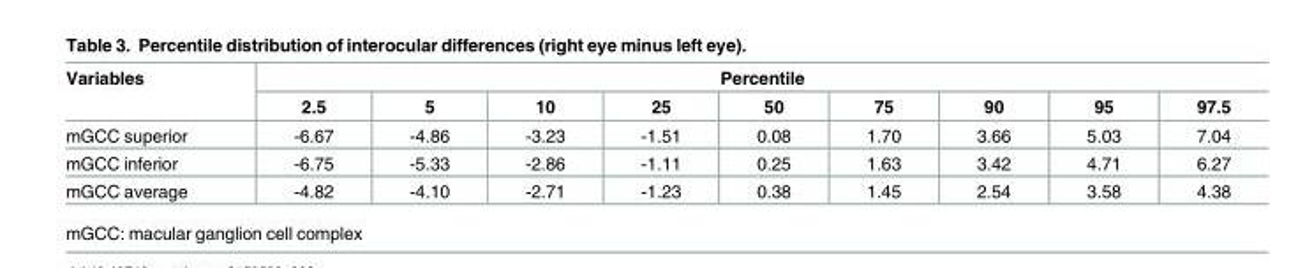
<table><thead><tr><td rowspan="2">Variables</td><td colspan="9">Percentile</td></tr><tr><td>2.5</td><td>5</td><td>10</td><td>25</td><td>50</td><td>75</td><td>90</td><td>95</td><td>97.5</td></tr></thead><tbody><tr><td>mGCC superior</td><td>-6.67</td><td>-4.86</td><td>-3.23</td><td>-1.51</td><td>0.08</td><td>1.70</td><td>3.66</td><td>5.03</td><td>7.04</td></tr><tr><td>mGCC inferior</td><td>-6.75</td><td>-5.33</td><td>-2.86</td><td>-1.11</td><td>0.25</td><td>1.63</td><td>3.42</td><td>4.71</td><td>6.27</td></tr><tr><td>mGCC average</td><td>-4.82</td><td>-4.10</td><td>-2.71</td><td>-1.23</td><td>0.38</td><td>1.45</td><td>2.54</td><td>3.58</td><td>4.38</td></tr></tbody></table>